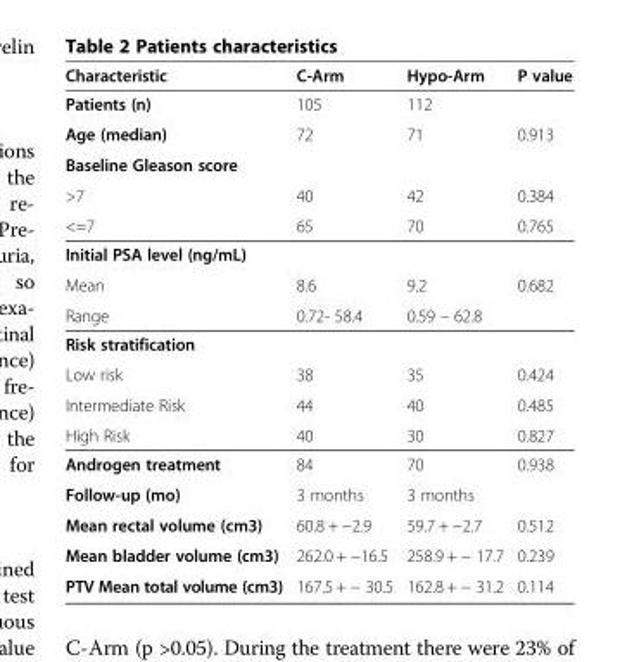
<table><thead><tr><td>Characteristic</td><td>C-Arm</td><td>Hypo-Arm</td><td>P value</td></tr></thead><tbody><tr><td>Patients (n)</td><td>105</td><td>112</td><td></td></tr><tr><td>Age (median)</td><td>72</td><td>71</td><td>0.913</td></tr><tr><td colspan="4">Baseline Gleason score</td></tr><tr><td>&gt;7</td><td>40</td><td>42</td><td>0.384</td></tr><tr><td>&lt;=7</td><td>65</td><td>70</td><td>0.765</td></tr><tr><td colspan="4">Initial PSA level (ng/mL)</td></tr><tr><td>Mean</td><td>8.6</td><td>9.2</td><td>0.682</td></tr><tr><td>Range</td><td>0.72- 58.4</td><td>0.59 – 62.8</td><td></td></tr><tr><td colspan="4">Risk stratification</td></tr><tr><td>Low risk</td><td>38</td><td>35</td><td>0.424</td></tr><tr><td>Intermediate Risk</td><td>44</td><td>40</td><td>0.485</td></tr><tr><td>High Risk</td><td>40</td><td>30</td><td>0.827</td></tr><tr><td>Androgen treatment</td><td>84</td><td>70</td><td>0.938</td></tr><tr><td>Follow-up (mo)</td><td>3 months</td><td>3 months</td><td></td></tr><tr><td>Mean rectal volume (cm3)</td><td>60.8 + −2.9</td><td>59.7 + −2.7</td><td>0.512</td></tr><tr><td>Mean bladder volume (cm3)</td><td>262.0 + −16.5</td><td>258.9 + − 17.7</td><td>0.239</td></tr><tr><td>PTV Mean total volume (cm3)</td><td>167.5 + − 30.5</td><td>162.8 + − 31.2</td><td>0.114</td></tr></tbody></table>